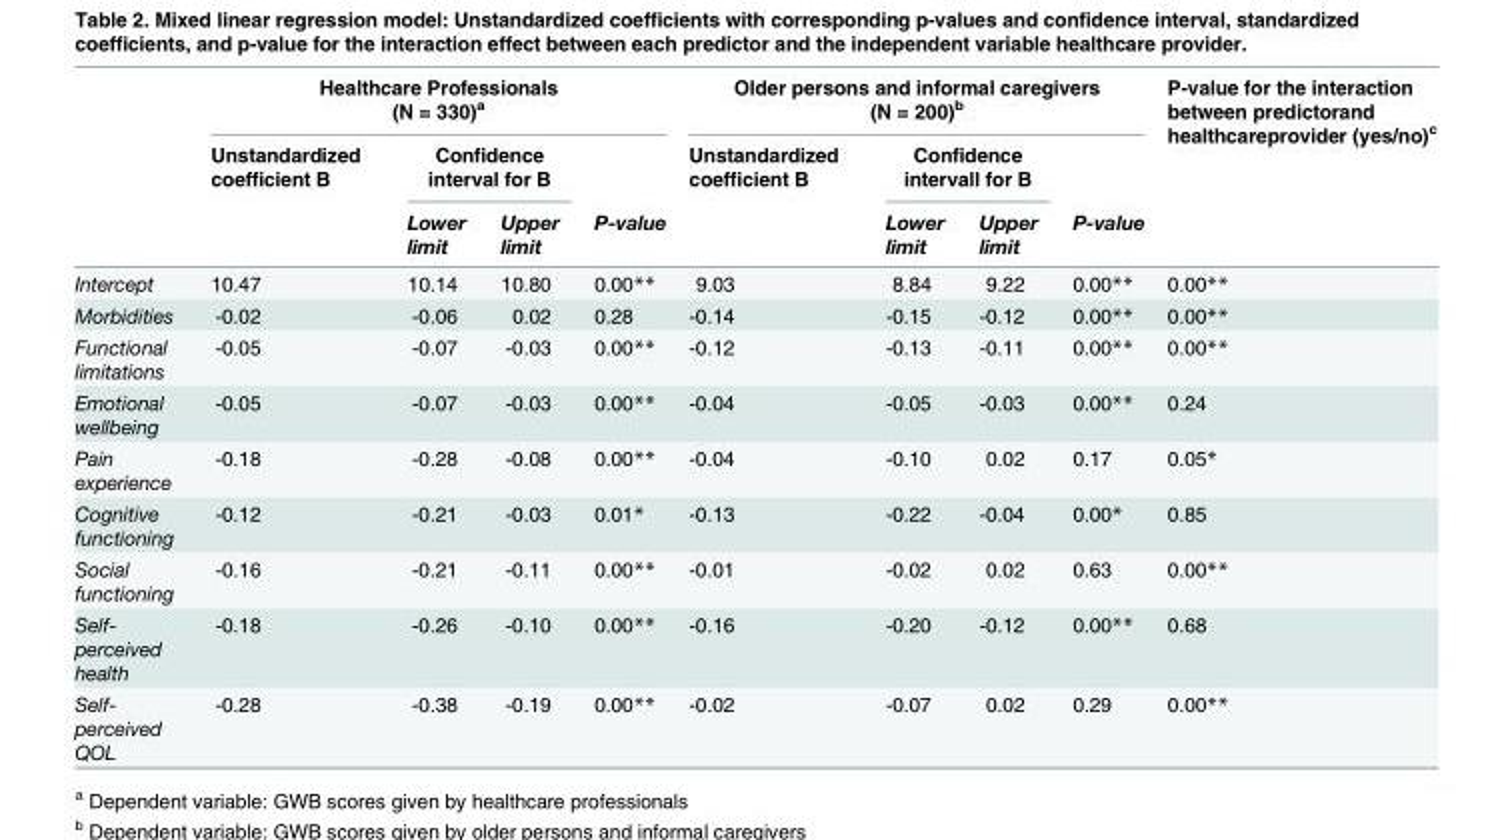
<table><thead><tr><td rowspan="3"></td><td colspan="4">Healthcare Professionals (N = 330)<sup>a</sup></td><td colspan="4">Older persons and informal caregivers (N = 200)<sup>b</sup></td><td rowspan="3">P-value for the interaction between predictorand healthcareprovider (yes/no)<sup>c</sup></td></tr><tr><td rowspan="2">Unstandardized coefficient B</td><td colspan="2">Confidence interval for B</td><td rowspan="2">P-value</td><td rowspan="2">Unstandardized coefficient B</td><td colspan="2">Confidence intervall for B</td><td rowspan="2">P-value</td></tr><tr><td>Lower limit</td><td>Upper limit</td><td>Lower limit</td><td>Upper limit</td></tr></thead><tbody><tr><td>Intercept</td><td>10.47</td><td>10.14</td><td>10.80</td><td>0.00**</td><td>9.03</td><td>8.84</td><td>9.22</td><td>0.00**</td><td>0.00**</td></tr><tr><td>Morbidities</td><td>-0.02</td><td>-0.06</td><td>0.02</td><td>0.28</td><td>-0.14</td><td>-0.15</td><td>-0.12</td><td>0.00**</td><td>0.00**</td></tr><tr><td>Functional limitations</td><td>-0.05</td><td>-0.07</td><td>-0.03</td><td>0.00**</td><td>-0.12</td><td>-0.13</td><td>-0.11</td><td>0.00**</td><td>0.00**</td></tr><tr><td>Emotional wellbeing</td><td>-0.05</td><td>-0.07</td><td>-0.03</td><td>0.00**</td><td>-0.04</td><td>-0.05</td><td>-0.03</td><td>0.00**</td><td>0.24</td></tr><tr><td>Pain experience</td><td>-0.18</td><td>-0.28</td><td>-0.08</td><td>0.00**</td><td>-0.04</td><td>-0.10</td><td>0.02</td><td>0.17</td><td>0.05*</td></tr><tr><td>Cognitive functioning</td><td>-0.12</td><td>-0.21</td><td>-0.03</td><td>0.01*</td><td>-0.13</td><td>-0.22</td><td>-0.04</td><td>0.00*</td><td>0.85</td></tr><tr><td>Social functioning</td><td>-0.16</td><td>-0.21</td><td>-0.11</td><td>0.00**</td><td>-0.01</td><td>-0.02</td><td>0.02</td><td>0.63</td><td>0.00**</td></tr><tr><td>Self- perceived health</td><td>-0.18</td><td>-0.26</td><td>-0.10</td><td>0.00**</td><td>-0.16</td><td>-0.20</td><td>-0.12</td><td>0.00**</td><td>0.68</td></tr><tr><td>Self- perceived QOL</td><td>-0.28</td><td>-0.38</td><td>-0.19</td><td>0.00**</td><td>-0.02</td><td>-0.07</td><td>0.02</td><td>0.29</td><td>0.00**</td></tr></tbody></table>